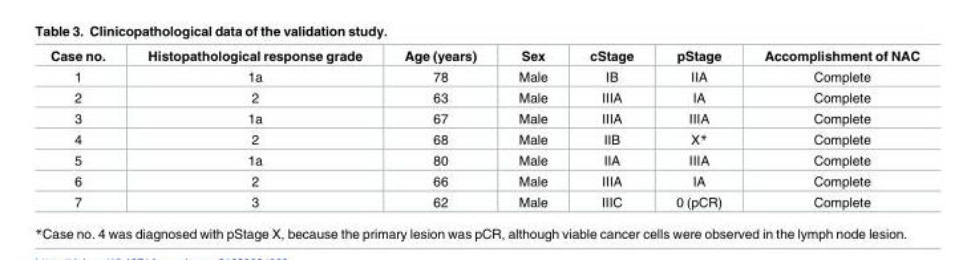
<table><thead><tr><td>Case no.</td><td>Histopathological response grade</td><td>Age (years)</td><td>Sex</td><td>cStage</td><td>pStage</td><td>Accomplishment of NAC</td></tr></thead><tbody><tr><td>1</td><td>1a</td><td>78</td><td>Male</td><td>IB</td><td>IIA</td><td>Complete</td></tr><tr><td>2</td><td>2</td><td>63</td><td>Male</td><td>IIIA</td><td>IA</td><td>Complete</td></tr><tr><td>3</td><td>1a</td><td>67</td><td>Male</td><td>IIIA</td><td>IIIA</td><td>Complete</td></tr><tr><td>4</td><td>2</td><td>68</td><td>Male</td><td>IIB</td><td>X*</td><td>Complete</td></tr><tr><td>5</td><td>1a</td><td>80</td><td>Male</td><td>IIA</td><td>IIIA</td><td>Complete</td></tr><tr><td>6</td><td>2</td><td>66</td><td>Male</td><td>IIIA</td><td>IA</td><td>Complete</td></tr><tr><td>7</td><td>3</td><td>62</td><td>Male</td><td>IIIC</td><td>0 (pCR)</td><td>Complete</td></tr></tbody></table>